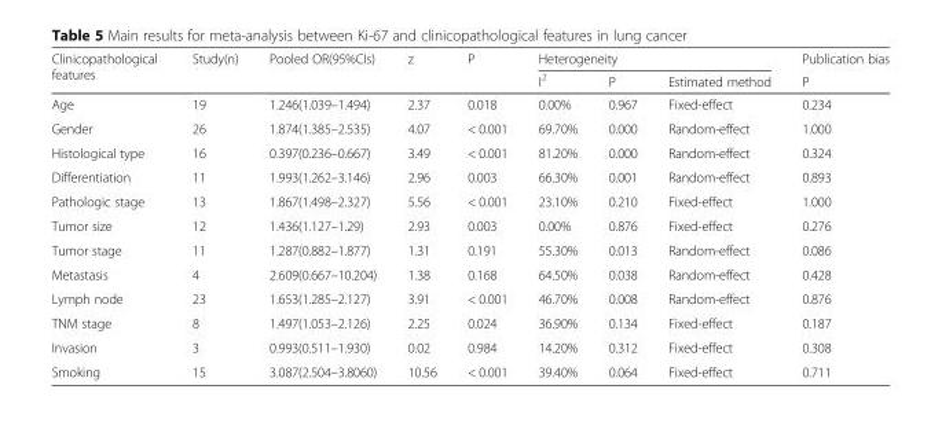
<table><thead><tr><td rowspan="2">Clinicopathological features</td><td rowspan="2">Study(n)</td><td rowspan="2">Pooled OR(95%CIs)</td><td rowspan="2">z</td><td rowspan="2">P</td><td colspan="3">Heterogeneity</td><td rowspan="2">Publication bias P</td></tr><tr><td>I<sup>2</sup></td><td>P</td><td>Estimated method</td></tr></thead><tbody><tr><td>Age</td><td>19</td><td>1.246(1.039–1.494)</td><td>2.37</td><td>0.018</td><td>0.00%</td><td>0.967</td><td>Fixed-effect</td><td>0.234</td></tr><tr><td>Gender</td><td>26</td><td>1.874(1.385–2.535)</td><td>4.07</td><td>&lt; 0.001</td><td>69.70%</td><td>0.000</td><td>Random-effect</td><td>1.000</td></tr><tr><td>Histological type</td><td>16</td><td>0.397(0.236–0.667)</td><td>3.49</td><td>&lt; 0.001</td><td>81.20%</td><td>0.000</td><td>Random-effect</td><td>0.324</td></tr><tr><td>Differentiation</td><td>11</td><td>1.993(1.262–3.146)</td><td>2.96</td><td>0.003</td><td>66.30%</td><td>0.001</td><td>Random-effect</td><td>0.893</td></tr><tr><td>Pathologic stage</td><td>13</td><td>1.867(1.498–2.327)</td><td>5.56</td><td>&lt; 0.001</td><td>23.10%</td><td>0.210</td><td>Fixed-effect</td><td>1.000</td></tr><tr><td>Tumor size</td><td>12</td><td>1.436(1.127–1.29)</td><td>2.93</td><td>0.003</td><td>0.00%</td><td>0.876</td><td>Fixed-effect</td><td>0.276</td></tr><tr><td>Tumor stage</td><td>11</td><td>1.287(0.882–1.877)</td><td>1.31</td><td>0.191</td><td>55.30%</td><td>0.013</td><td>Random-effect</td><td>0.086</td></tr><tr><td>Metastasis</td><td>4</td><td>2.609(0.667–10.204)</td><td>1.38</td><td>0.168</td><td>64.50%</td><td>0.038</td><td>Random-effect</td><td>0.428</td></tr><tr><td>Lymph node</td><td>23</td><td>1.653(1.285–2.127)</td><td>3.91</td><td>&lt; 0.001</td><td>46.70%</td><td>0.008</td><td>Random-effect</td><td>0.876</td></tr><tr><td>TNM stage</td><td>8</td><td>1.497(1.053–2.126)</td><td>2.25</td><td>0.024</td><td>36.90%</td><td>0.134</td><td>Fixed-effect</td><td>0.187</td></tr><tr><td>Invasion</td><td>3</td><td>0.993(0.511–1.930)</td><td>0.02</td><td>0.984</td><td>14.20%</td><td>0.312</td><td>Fixed-effect</td><td>0.308</td></tr><tr><td>Smoking</td><td>15</td><td>3.087(2.504–3.8060)</td><td>10.56</td><td>&lt; 0.001</td><td>39.40%</td><td>0.064</td><td>Fixed-effect</td><td>0.711</td></tr></tbody></table>